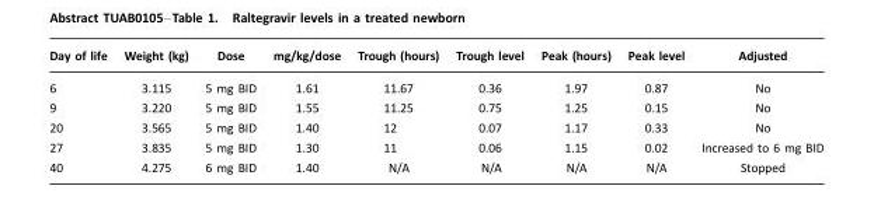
<table><thead><tr><td>Day of life</td><td>Weight (kg)</td><td>Dose</td><td>mg/kg/dose</td><td>Trough (hours)</td><td>Trough level</td><td>Peak (hours)</td><td>Peak level</td><td>Adjusted</td></tr></thead><tbody><tr><td>6</td><td>3.115</td><td>5 mg BID</td><td>1.61</td><td>11.67</td><td>0.36</td><td>1.97</td><td>0.87</td><td>No</td></tr><tr><td>9</td><td>3.220</td><td>5 mg BID</td><td>1.55</td><td>11.25</td><td>0.75</td><td>1.25</td><td>0.15</td><td>No</td></tr><tr><td>20</td><td>3.565</td><td>5 mg BID</td><td>1.40</td><td>12</td><td>0.07</td><td>1.17</td><td>0.33</td><td>No</td></tr><tr><td>27</td><td>3.835</td><td>5 mg BID</td><td>1.30</td><td>11</td><td>0.06</td><td>1.15</td><td>0.02</td><td>Increased to 6 mg BID</td></tr><tr><td>40</td><td>4.275</td><td>6 mg BID</td><td>1.40</td><td>N/A</td><td>N/A</td><td>N/A</td><td>N/A</td><td>Stopped</td></tr></tbody></table>